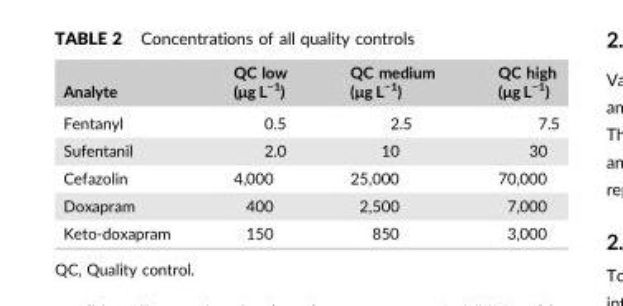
<table><thead><tr><td>Analyte</td><td>QC low (μg L<sup>−1</sup>)</td><td>QC medium (μg L<sup>−1</sup>)</td><td>QC high (μg L<sup>−1</sup>)</td></tr></thead><tbody><tr><td>Fentanyl</td><td>0.5</td><td>2.5</td><td>7.5</td></tr><tr><td>Sufentanil</td><td>2.0</td><td>10</td><td>30</td></tr><tr><td>Cefazolin</td><td>4,000</td><td>25,000</td><td>70,000</td></tr><tr><td>Doxapram</td><td>400</td><td>2,500</td><td>7,000</td></tr><tr><td>Keto‐doxapram</td><td>150</td><td>850</td><td>3,000</td></tr></tbody></table>